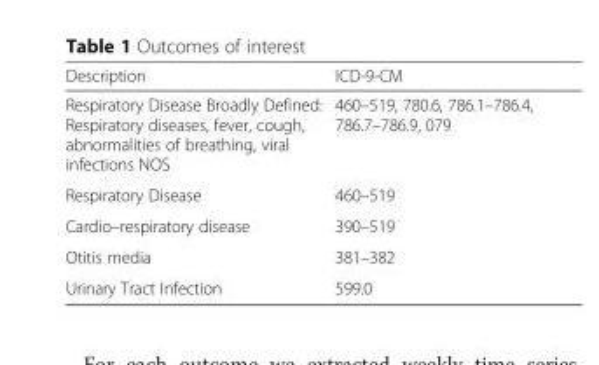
<table><thead><tr><td>Description</td><td>ICD-9-CM</td></tr></thead><tbody><tr><td>Respiratory Disease Broadly Defined: Respiratory diseases, fever, cough, abnormalities of breathing, viral infections NOS</td><td>460–519, 780.6, 786.1–786.4, 786.7–786.9, 079</td></tr><tr><td>Respiratory Disease</td><td>460–519</td></tr><tr><td>Cardio–respiratory disease</td><td>390–519</td></tr><tr><td>Otitis media</td><td>381–382</td></tr><tr><td>Urinary Tract Infection</td><td>599.0</td></tr></tbody></table>